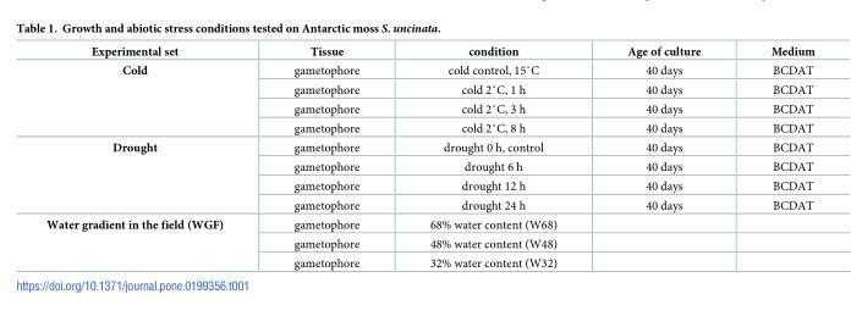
<table><thead><tr><td>Experimental set</td><td>Tissue</td><td>condition</td><td>Age of culture</td><td>Medium</td></tr></thead><tbody><tr><td rowspan="4">Cold</td><td>gametophore</td><td>cold control, 15˚C</td><td>40 days</td><td>BCDAT</td></tr><tr><td>gametophore</td><td>cold 2˚C, 1 h</td><td>40 days</td><td>BCDAT</td></tr><tr><td>gametophore</td><td>cold 2˚C, 3 h</td><td>40 days</td><td>BCDAT</td></tr><tr><td>gametophore</td><td>cold 2˚C, 8 h</td><td>40 days</td><td>BCDAT</td></tr><tr><td rowspan="4">Drought</td><td>gametophore</td><td>drought 0 h, control</td><td>40 days</td><td>BCDAT</td></tr><tr><td>gametophore</td><td>drought 6 h</td><td>40 days</td><td>BCDAT</td></tr><tr><td>gametophore</td><td>drought 12 h</td><td>40 days</td><td>BCDAT</td></tr><tr><td>gametophore</td><td>drought 24 h</td><td>40 days</td><td>BCDAT</td></tr><tr><td rowspan="3">Water gradient in the field (WGF)</td><td>gametophore</td><td>68% water content (W68)</td><td></td><td></td></tr><tr><td>gametophore</td><td>48% water content (W48)</td><td></td><td></td></tr><tr><td>gametophore</td><td>32% water content (W32)</td><td></td><td></td></tr></tbody></table>